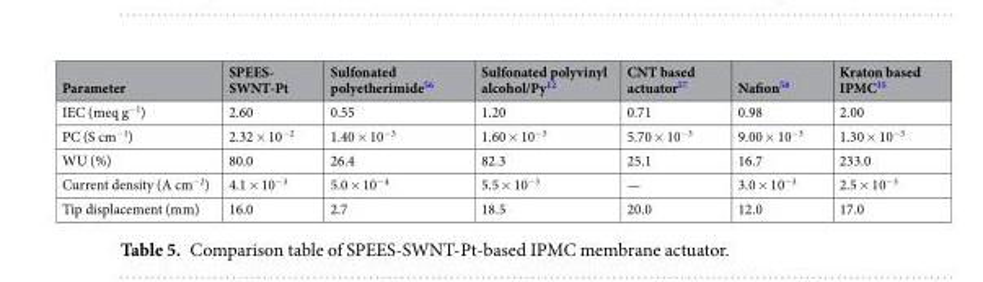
<table><thead><tr><td>Parameter</td><td>SPEES- SWNT-Pt</td><td>Sulfonated polyetherimide<sup>56</sup></td><td>Sulfonated polyvinyl alcohol/Py<sup>12</sup></td><td>CNT based actuator<sup>57</sup></td><td>Nafion<sup>58</sup></td><td>Kraton based IPMC<sup>35</sup></td></tr></thead><tbody><tr><td>IEC (meq g<sup>−1</sup>)</td><td>2.60</td><td>0.55</td><td>1.20</td><td>0.71</td><td>0.98</td><td>2.00</td></tr><tr><td>PC (S cm<sup>−1</sup>)</td><td>2.32 × 10<sup>−2</sup></td><td>1.40 × 10<sup>−3</sup></td><td>1.60 × 10<sup>−3</sup></td><td>5.70 × 10<sup>−3</sup></td><td>9.00 × 10<sup>−3</sup></td><td>1.30 × 10<sup>−3</sup></td></tr><tr><td>WU (%)</td><td>80.0</td><td>26.4</td><td>82.3</td><td>25.1</td><td>16.7</td><td>233.0</td></tr><tr><td>Current density (A cm<sup>−2</sup>)</td><td>4.1 × 10<sup>−3</sup></td><td>5.0 × 10<sup>−4</sup></td><td>5.5 × 10<sup>−3</sup></td><td>—</td><td>3.0 × 10<sup>−3</sup></td><td>2.5 × 10<sup>−3</sup></td></tr><tr><td>Tip displacement (mm)</td><td>16.0</td><td>2.7</td><td>18.5</td><td>20.0</td><td>12.0</td><td>17.0</td></tr></tbody></table>